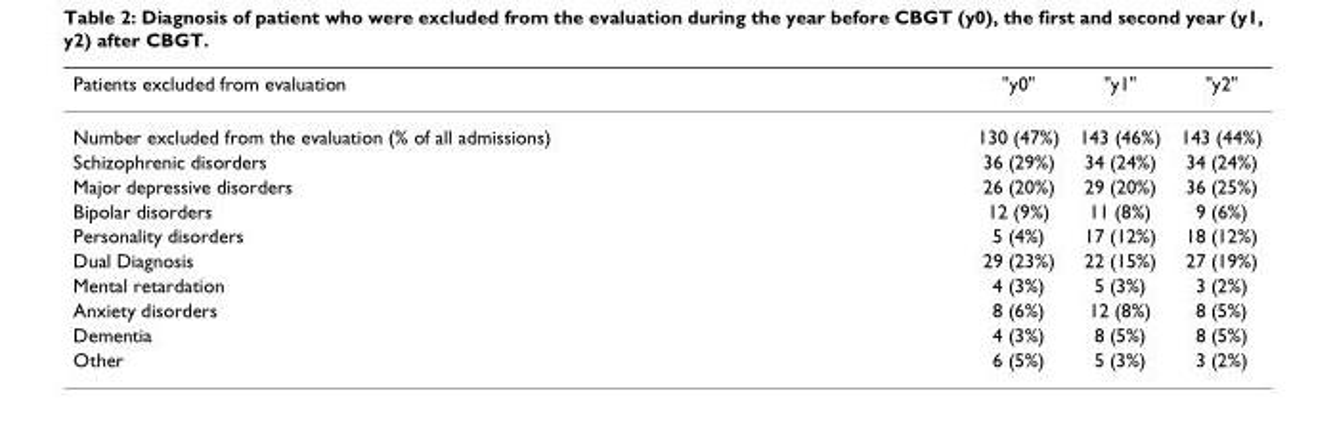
<table><thead><tr><td>Patients excluded from evaluation</td><td>&quot;y0&quot;</td><td>&quot;y1&quot;</td><td>&quot;y2&quot;</td></tr></thead><tbody><tr><td>Number excluded from the evaluation (% of all admissions)</td><td>130 (47%)</td><td>143 (46%)</td><td>143 (44%)</td></tr><tr><td>Schizophrenic disorders</td><td>36 (29%)</td><td>34 (24%)</td><td>34 (24%)</td></tr><tr><td>Major depressive disorders</td><td>26 (20%)</td><td>29 (20%)</td><td>36 (25%)</td></tr><tr><td>Bipolar disorders</td><td>12 (9%)</td><td>11 (8%)</td><td>9 (6%)</td></tr><tr><td>Personality disorders</td><td>5 (4%)</td><td>17 (12%)</td><td>18 (12%)</td></tr><tr><td>Dual Diagnosis</td><td>29 (23%)</td><td>22 (15%)</td><td>27 (19%)</td></tr><tr><td>Mental retardation</td><td>4 (3%)</td><td>5 (3%)</td><td>3 (2%)</td></tr><tr><td>Anxiety disorders</td><td>8 (6%)</td><td>12 (8%)</td><td>8 (5%)</td></tr><tr><td>Dementia</td><td>4 (3%)</td><td>8 (5%)</td><td>8 (5%)</td></tr><tr><td>Other</td><td>6 (5%)</td><td>5 (3%)</td><td>3 (2%)</td></tr></tbody></table>